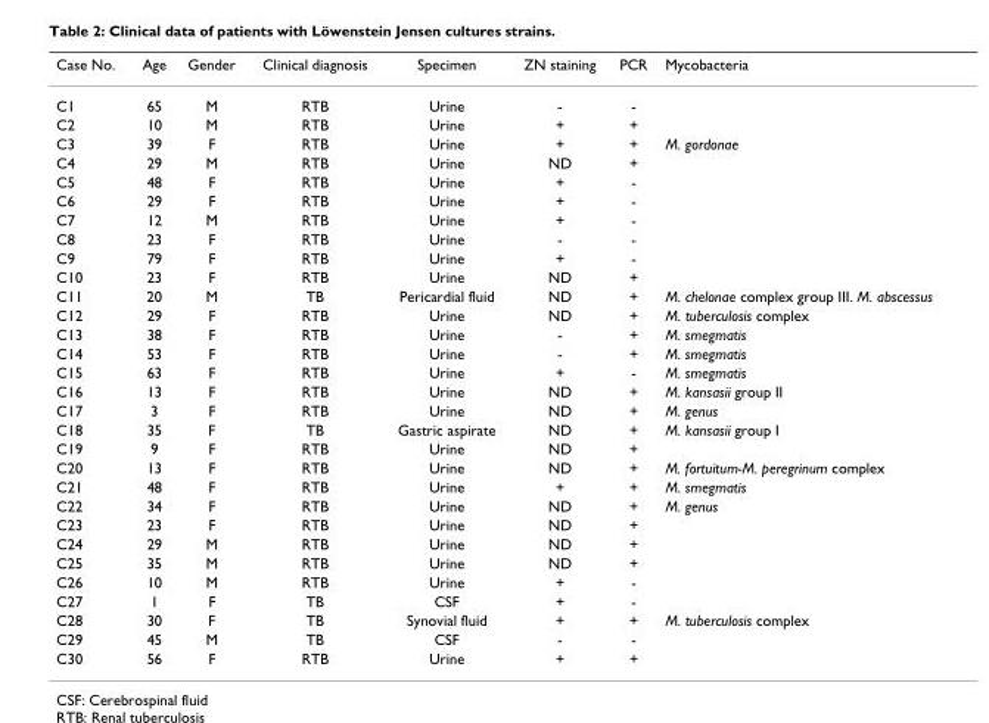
<table><thead><tr><td>Case No.</td><td>Age</td><td>Gender</td><td>Clinical diagnosis</td><td>Specimen</td><td>ZN staining</td><td>PCR</td><td>Mycobacteria</td></tr></thead><tbody><tr><td>C1</td><td>65</td><td>M</td><td>RTB</td><td>Urine</td><td>-</td><td>-</td><td></td></tr><tr><td>C2</td><td>10</td><td>M</td><td>RTB</td><td>Urine</td><td>+</td><td>+</td><td></td></tr><tr><td>C3</td><td>39</td><td>F</td><td>RTB</td><td>Urine</td><td>+</td><td>+</td><td>M. gordonae</td></tr><tr><td>C4</td><td>29</td><td>M</td><td>RTB</td><td>Urine</td><td>ND</td><td>+</td><td></td></tr><tr><td>C5</td><td>48</td><td>F</td><td>RTB</td><td>Urine</td><td>+</td><td>-</td><td></td></tr><tr><td>C6</td><td>29</td><td>F</td><td>RTB</td><td>Urine</td><td>+</td><td>-</td><td></td></tr><tr><td>C7</td><td>12</td><td>M</td><td>RTB</td><td>Urine</td><td>+</td><td>-</td><td></td></tr><tr><td>C8</td><td>23</td><td>F</td><td>RTB</td><td>Urine</td><td>-</td><td>-</td><td></td></tr><tr><td>C9</td><td>79</td><td>F</td><td>RTB</td><td>Urine</td><td>+</td><td>-</td><td></td></tr><tr><td>C10</td><td>23</td><td>F</td><td>RTB</td><td>Urine</td><td>ND</td><td>+</td><td></td></tr><tr><td>C11</td><td>20</td><td>M</td><td>TB</td><td>Pericardial fluid</td><td>ND</td><td>+</td><td>M. chelonae complex group III. M. abscessus</td></tr><tr><td>C12</td><td>29</td><td>F</td><td>RTB</td><td>Urine</td><td>ND</td><td>+</td><td>M. tuberculosis complex</td></tr><tr><td>C13</td><td>38</td><td>F</td><td>RTB</td><td>Urine</td><td>-</td><td>+</td><td>M. smegmatis</td></tr><tr><td>C14</td><td>53</td><td>F</td><td>RTB</td><td>Urine</td><td>-</td><td>+</td><td>M. smegmatis</td></tr><tr><td>C15</td><td>63</td><td>F</td><td>RTB</td><td>Urine</td><td>+</td><td>-</td><td>M. smegmatis</td></tr><tr><td>C16</td><td>13</td><td>F</td><td>RTB</td><td>Urine</td><td>ND</td><td>+</td><td>M. kansasii group II</td></tr><tr><td>C17</td><td>3</td><td>F</td><td>RTB</td><td>Urine</td><td>ND</td><td>+</td><td>M. genus</td></tr><tr><td>C18</td><td>35</td><td>F</td><td>TB</td><td>Gastric aspirate</td><td>ND</td><td>+</td><td>M. kansasii group I</td></tr><tr><td>C19</td><td>9</td><td>F</td><td>RTB</td><td>Urine</td><td>ND</td><td>+</td><td></td></tr><tr><td>C20</td><td>13</td><td>F</td><td>RTB</td><td>Urine</td><td>ND</td><td>+</td><td>M. fortuitum-M. peregrinum complex</td></tr><tr><td>C21</td><td>48</td><td>F</td><td>RTB</td><td>Urine</td><td>+</td><td>+</td><td>M. smegmatis</td></tr><tr><td>C22</td><td>34</td><td>F</td><td>RTB</td><td>Urine</td><td>ND</td><td>+</td><td>M. genus</td></tr><tr><td>C23</td><td>23</td><td>F</td><td>RTB</td><td>Urine</td><td>ND</td><td>+</td><td></td></tr><tr><td>C24</td><td>29</td><td>M</td><td>RTB</td><td>Urine</td><td>ND</td><td>+</td><td></td></tr><tr><td>C25</td><td>35</td><td>M</td><td>RTB</td><td>Urine</td><td>ND</td><td>+</td><td></td></tr><tr><td>C26</td><td>10</td><td>M</td><td>RTB</td><td>Urine</td><td>+</td><td>-</td><td></td></tr><tr><td>C27</td><td>1</td><td>F</td><td>TB</td><td>CSF</td><td>+</td><td>-</td><td></td></tr><tr><td>C28</td><td>30</td><td>F</td><td>TB</td><td>Synovial fluid</td><td>+</td><td>+</td><td>M. tuberculosis complex</td></tr><tr><td>C29</td><td>45</td><td>M</td><td>TB</td><td>CSF</td><td>-</td><td>-</td><td></td></tr><tr><td>C30</td><td>56</td><td>F</td><td>RTB</td><td>Urine</td><td>+</td><td>+</td><td></td></tr></tbody></table>